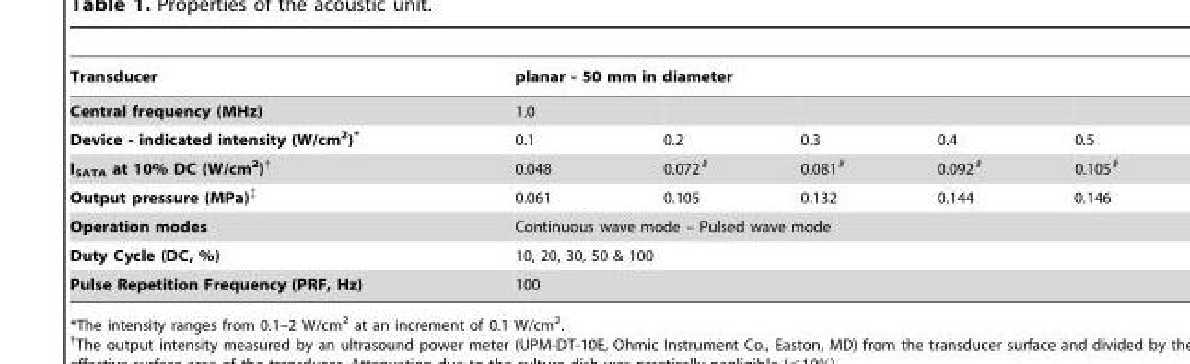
<table><thead><tr><td rowspan="2">Transducer Central frequency (MHz)</td><td colspan="5">planar - 50 mm in diameter</td></tr><tr><td>1.0</td><td></td><td></td><td></td><td></td></tr></thead><tbody><tr><td>Device - indicated intensity (W/cm<sup>2</sup>)*</td><td>0.1</td><td>0.2</td><td>0.3</td><td>0.4</td><td>0.5</td></tr><tr><td>I<sub>SATA</sub> at 10% DC (W/cm<sup>2</sup>)†</td><td>0.048</td><td>0.072§</td><td>0.081§</td><td>0.092§</td><td>0.105§</td></tr><tr><td>Output pressure (MPa)‡</td><td>0.061</td><td>0.105</td><td>0.132</td><td>0.144</td><td>0.146</td></tr><tr><td>Operation modes</td><td colspan="5">Continuous wave mode – Pulsed wave mode</td></tr><tr><td>Duty Cycle (DC, %)</td><td colspan="5">10, 20, 30, 50 &amp; 100</td></tr><tr><td>Pulse Repetition Frequency (PRF, Hz)</td><td colspan="5">100</td></tr></tbody></table>